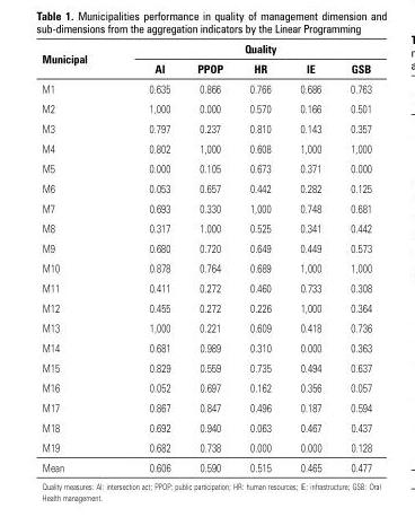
<table><thead><tr><td rowspan="2">municipal</td><td colspan="5">Quality</td></tr><tr><td>ai</td><td>PPoP</td><td>HR</td><td>ie</td><td>gsB</td></tr></thead><tbody><tr><td>M1</td><td>0.635</td><td>0.866</td><td>0.766</td><td>0.686</td><td>0.763</td></tr><tr><td>M2</td><td>1,000</td><td>0.000</td><td>0.570</td><td>0.166</td><td>0.501</td></tr><tr><td>M3</td><td>0.797</td><td>0.237</td><td>0.810</td><td>0.143</td><td>0.357</td></tr><tr><td>M4</td><td>0.802</td><td>1,000</td><td>0.608</td><td>1,000</td><td>1,000</td></tr><tr><td>M5</td><td>0.000</td><td>0.105</td><td>0.673</td><td>0.371</td><td>0.000</td></tr><tr><td>M6</td><td>0.053</td><td>0.657</td><td>0.442</td><td>0.282</td><td>0.125</td></tr><tr><td>M7</td><td>0.693</td><td>0.330</td><td>1,000</td><td>0.748</td><td>0.681</td></tr><tr><td>M8</td><td>0.317</td><td>1.000</td><td>0.525</td><td>0.341</td><td>0.442</td></tr><tr><td>M9</td><td>0.680</td><td>0.720</td><td>0.649</td><td>0.449</td><td>0.573</td></tr><tr><td>M10</td><td>0.878</td><td>0.764</td><td>0.689</td><td>1,000</td><td>1,000</td></tr><tr><td>M11</td><td>0.411</td><td>0.272</td><td>0.460</td><td>0.733</td><td>0.308</td></tr><tr><td>M12</td><td>0.455</td><td>0.272</td><td>0.226</td><td>1,000</td><td>0.364</td></tr><tr><td>M13</td><td>1,000</td><td>0.221</td><td>0.609</td><td>0.418</td><td>0.736</td></tr><tr><td>M14</td><td>0.681</td><td>0.989</td><td>0.310</td><td>0.000</td><td>0.363</td></tr><tr><td>M15</td><td>0.829</td><td>0.559</td><td>0.735</td><td>0.494</td><td>0.637</td></tr><tr><td>M16</td><td>0.052</td><td>0.697</td><td>0.162</td><td>0.356</td><td>0.057</td></tr><tr><td>M17</td><td>0.867</td><td>0.847</td><td>0.496</td><td>0.187</td><td>0.594</td></tr><tr><td>M18</td><td>0.692</td><td>0.940</td><td>0.063</td><td>0.467</td><td>0.437</td></tr><tr><td>M19</td><td>0.682</td><td>0.738</td><td>0.000</td><td>0.000</td><td>0.128</td></tr><tr><td>Mean</td><td>0.606</td><td>0.590</td><td>0.515</td><td>0.465</td><td>0.477</td></tr></tbody></table>